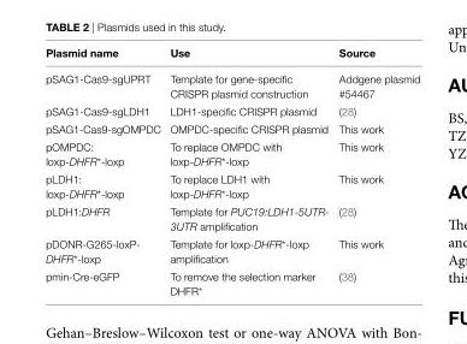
<table><thead><tr><td>Plasmid name</td><td>Use</td><td>source</td></tr></thead><tbody><tr><td>pSAG1-Cas9-sgUPRT</td><td>Template for gene-specific CRISPR plasmid construction</td><td>Addgene plasmid #54467</td></tr><tr><td>pSAG1-Cas9-sgLDH1</td><td>LDH1-specific CRISPR plasmid</td><td>(28)</td></tr><tr><td>pSAG1-Cas9-sgOMPDC</td><td>OMPDC-specific CRISPR plasmid</td><td>This work</td></tr><tr><td>pOMPDC: loxp-DHFR*-loxp</td><td>To replace OMPDC with loxp-DHFR*-loxp</td><td>This work</td></tr><tr><td>pLDH1: loxp-DHFR*-loxp</td><td>To replace LDH1 with loxp-DHFR*-loxp</td><td>This work</td></tr><tr><td>pLDH1:DHFR</td><td>Template for PUC19:LDH1-5UTR- 3UTR amplification</td><td>(28)</td></tr><tr><td>pDONR-G265-loxP- DHFR*-loxp</td><td>Template for loxp-DHFR*-loxp amplification</td><td>This work</td></tr><tr><td>pmin-Cre-eGFP</td><td>To remove the selection marker DHFR*</td><td>(38)</td></tr></tbody></table>